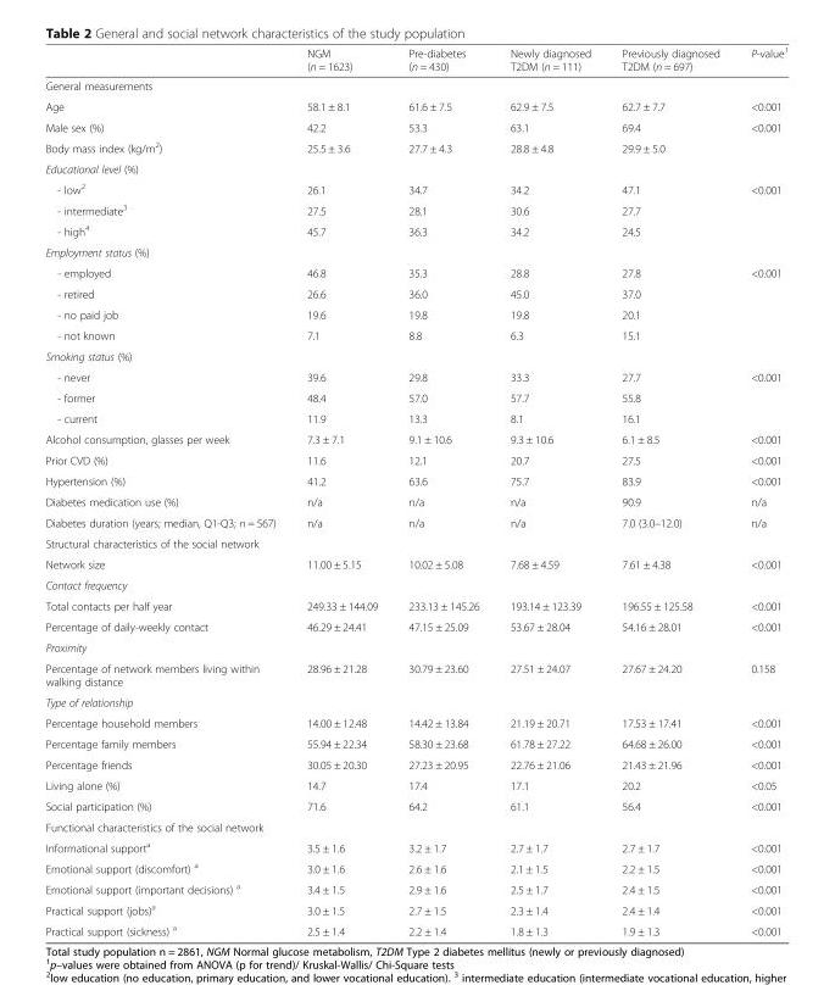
<table><thead><tr><td></td><td>NGM (n = 1623)</td><td>Pre-diabetes (n = 430)</td><td>Newly diagnosed T2DM (n = 111)</td><td>Previously diagnosed T2DM (n = 697)</td><td>P-value<sup>1</sup></td></tr></thead><tbody><tr><td colspan="6">General measurements</td></tr><tr><td>Age</td><td>58.1 ± 8.1</td><td>61.6 ± 7.5</td><td>62.9 ± 7.5</td><td>62.7 ± 7.7</td><td>&lt;0.001</td></tr><tr><td>Male sex (%)</td><td>42.2</td><td>53.3</td><td>63.1</td><td>69.4</td><td>&lt;0.001</td></tr><tr><td>Body mass index (kg/m<sup>2</sup>)</td><td>25.5 ± 3.6</td><td>27.7 ± 4.3</td><td>28.8 ± 4.8</td><td>29.9 ± 5.0</td><td></td></tr><tr><td colspan="6">Educational level (%)</td></tr><tr><td>- low<sup>2</sup></td><td>26.1</td><td>34.7</td><td>34.2</td><td>47.1</td><td>&lt;0.001</td></tr><tr><td>- intermediate<sup>3</sup></td><td>27.5</td><td>28.1</td><td>30.6</td><td>27.7</td><td></td></tr><tr><td>- high<sup>4</sup></td><td>45.7</td><td>36.3</td><td>34.2</td><td>24.5</td><td></td></tr><tr><td colspan="6">Employment status (%)</td></tr><tr><td>- employed</td><td>46.8</td><td>35.3</td><td>28.8</td><td>27.8</td><td>&lt;0.001</td></tr><tr><td>- retired</td><td>26.6</td><td>36.0</td><td>45.0</td><td>37.0</td><td></td></tr><tr><td>- no paid job</td><td>19.6</td><td>19.8</td><td>19.8</td><td>20.1</td><td></td></tr><tr><td>- not known</td><td>7.1</td><td>8.8</td><td>6.3</td><td>15.1</td><td></td></tr><tr><td colspan="6">Smoking status (%)</td></tr><tr><td>- never</td><td>39.6</td><td>29.8</td><td>33.3</td><td>27.7</td><td>&lt;0.001</td></tr><tr><td>- former</td><td>48.4</td><td>57.0</td><td>57.7</td><td>55.8</td><td></td></tr><tr><td>- current</td><td>11.9</td><td>13.3</td><td>8.1</td><td>16.1</td><td></td></tr><tr><td>Alcohol consumption, glasses per week</td><td>7.3 ± 7.1</td><td>9.1 ± 10.6</td><td>9.3 ± 10.6</td><td>6.1 ± 8.5</td><td>&lt;0.001</td></tr><tr><td>Prior CVD (%)</td><td>11.6</td><td>12.1</td><td>20.7</td><td>27.5</td><td>&lt;0.001</td></tr><tr><td>Hypertension (%)</td><td>41.2</td><td>63.6</td><td>75.7</td><td>83.9</td><td>&lt;0.001</td></tr><tr><td>Diabetes medication use (%)</td><td>n/a</td><td>n/a</td><td>n/a</td><td>90.9</td><td>n/a</td></tr><tr><td>Diabetes duration (years; median, Q1-Q3; n = 567)</td><td>n/a</td><td>n/a</td><td>n/a</td><td>7.0 (3.0–12.0)</td><td>n/a</td></tr><tr><td colspan="6">Structural characteristics of the social network</td></tr><tr><td>Network size</td><td>11.00 ± 5.15</td><td>10.02 ± 5.08</td><td>7.68 ± 4.59</td><td>7.61 ± 4.38</td><td>&lt;0.001</td></tr><tr><td colspan="6">Contact frequency</td></tr><tr><td>Total contacts per half year</td><td>249.33 ± 144.09</td><td>233.13 ± 145.26</td><td>193.14 ± 123.39</td><td>196.55 ± 125.58</td><td>&lt;0.001</td></tr><tr><td>Percentage of daily-weekly contact</td><td>46.29 ± 24.41</td><td>47.15 ± 25.09</td><td>53.67 ± 28.04</td><td>54.16 ± 28.01</td><td>&lt;0.001</td></tr><tr><td colspan="6">Proximity</td></tr><tr><td>Percentage of network members living within walking distance</td><td>28.96 ± 21.28</td><td>30.79 ± 23.60</td><td>27.51 ± 24.07</td><td>27.67 ± 24.20</td><td>0.158</td></tr><tr><td colspan="6">Type of relationship</td></tr><tr><td>Percentage household members</td><td>14.00 ± 12.48</td><td>14.42 ± 13.84</td><td>21.19 ± 20.71</td><td>17.53 ± 17.41</td><td>&lt;0.001</td></tr><tr><td>Percentage family members</td><td>55.94 ± 22.34</td><td>58.30 ± 23.68</td><td>61.78 ± 27.22</td><td>64.68 ± 26.00</td><td>&lt;0.001</td></tr><tr><td>Percentage friends</td><td>30.05 ± 20.30</td><td>27.23 ± 20.95</td><td>22.76 ± 21.06</td><td>21.43 ± 21.96</td><td>&lt;0.001</td></tr><tr><td>Living alone (%)</td><td>14.7</td><td>17.4</td><td>17.1</td><td>20.2</td><td>&lt;0.05</td></tr><tr><td>Social participation (%)</td><td>71.6</td><td>64.2</td><td>61.1</td><td>56.4</td><td>&lt;0.001</td></tr><tr><td colspan="6">Functional characteristics of the social network</td></tr><tr><td>Informational support<sup>a</sup></td><td>3.5 ± 1.6</td><td>3.2 ± 1.7</td><td>2.7 ± 1.7</td><td>2.7 ± 1.7</td><td>&lt;0.001</td></tr><tr><td>Emotional support (discomfort) <sup>a</sup></td><td>3.0 ± 1.6</td><td>2.6 ± 1.6</td><td>2.1 ± 1.5</td><td>2.2 ± 1.5</td><td>&lt;0.001</td></tr><tr><td>Emotional support (important decisions) <sup>a</sup></td><td>3.4 ± 1.5</td><td>2.9 ± 1.6</td><td>2.5 ± 1.7</td><td>2.4 ± 1.5</td><td>&lt;0.001</td></tr><tr><td>Practical support (jobs)<sup>a</sup></td><td>3.0 ± 1.5</td><td>2.7 ± 1.5</td><td>2.3 ± 1.4</td><td>2.4 ± 1.4</td><td>&lt;0.001</td></tr><tr><td>Practical support (sickness) <sup>a</sup></td><td>2.5 ± 1.4</td><td>2.2 ± 1.4</td><td>1.8 ± 1.3</td><td>1.9 ± 1.3</td><td>&lt;0.001</td></tr></tbody></table>